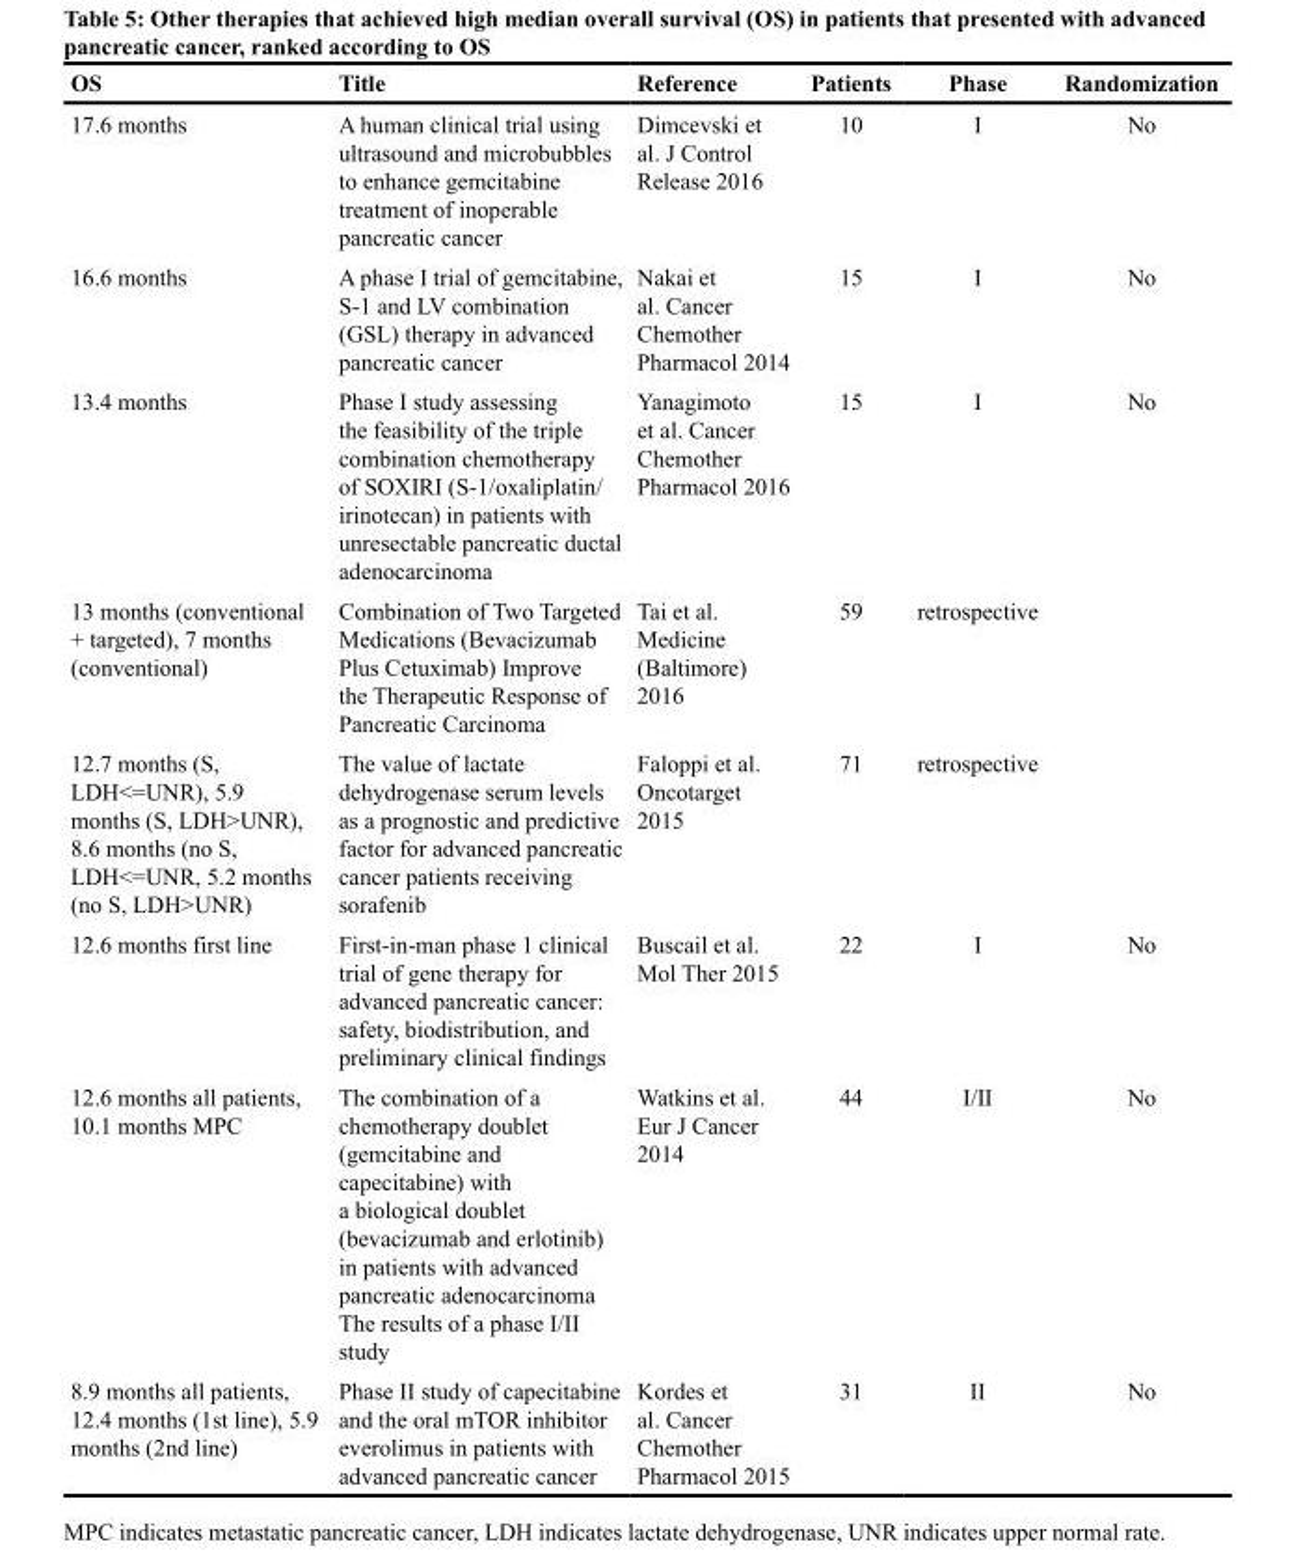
<table><thead><tr><td>OS</td><td>Title</td><td>Reference</td><td>Patients</td><td>Phase</td><td>Randomization</td></tr></thead><tbody><tr><td>17.6 months</td><td>A human clinical trial using ultrasound and microbubbles to enhance gemcitabine treatment of inoperable pancreatic cancer</td><td>Dimcevski et al. J Control Release 2016</td><td>10</td><td>I</td><td>No</td></tr><tr><td>16.6 months</td><td>A phase I trial of gemcitabine, S-1 and LV combination (GSL) therapy in advanced pancreatic cancer</td><td>Nakai et al. Cancer Chemother Pharmacol 2014</td><td>15</td><td>I</td><td>No</td></tr><tr><td>13.4 months</td><td>Phase I study assessing the feasibility of the triple combination chemotherapy of SOXIRI (S-1/oxaliplatin/ irinotecan) in patients with unresectable pancreatic ductal adenocarcinoma</td><td>Yanagimoto et al. Cancer Chemother Pharmacol 2016</td><td>15</td><td>I</td><td>No</td></tr><tr><td>13 months (conventional + targeted), 7 months (conventional)</td><td>Combination of Two Targeted Medications (Bevacizumab Plus Cetuximab) Improve the Therapeutic Response of Pancreatic Carcinoma</td><td>Tai et al. Medicine (Baltimore) 2016</td><td>59</td><td>retrospective</td><td></td></tr><tr><td>12.7 months (S, LDH&lt;=UNR), 5.9 months (S, LDH&gt;UNR), 8.6 months (no S, LDH&lt;=UNR, 5.2 months (no S, LDH&gt;UNR)</td><td>The value of lactate dehydrogenase serum levels as a prognostic and predictive factor for advanced pancreatic cancer patients receiving sorafenib</td><td>Faloppi et al. Oncotarget 2015</td><td>71</td><td>retrospective</td><td></td></tr><tr><td>12.6 months first line</td><td>First-in-man phase 1 clinical trial of gene therapy for advanced pancreatic cancer: safety, biodistribution, and preliminary clinical findings</td><td>Buscail et al. Mol Ther 2015</td><td>22</td><td>I</td><td>No</td></tr><tr><td>12.6 months all patients, 10.1 months MPC</td><td>The combination of a chemotherapy doublet (gemcitabine and capecitabine) with a biological doublet (bevacizumab and erlotinib) in patients with advanced pancreatic adenocarcinoma The results of a phase I/II study</td><td>Watkins et al. Eur J Cancer 2014</td><td>44</td><td>I/II</td><td>No</td></tr><tr><td>8.9 months all patients, 12.4 months (1st line), 5.9 months (2nd line)</td><td>Phase II study of capecitabine and the oral mTOR inhibitor everolimus in patients with advanced pancreatic cancer</td><td>Kordes et al. Cancer Chemother Pharmacol 2015</td><td>31</td><td>II</td><td>No</td></tr></tbody></table>